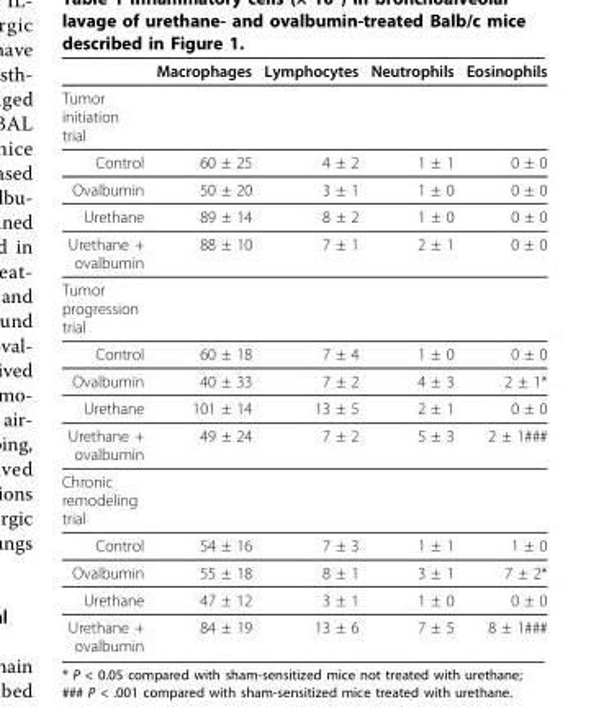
<table><thead><tr><td></td><td>Macrophages</td><td>Lymphocytes</td><td>Neutrophils</td><td>Eosinophils</td></tr></thead><tbody><tr><td colspan="5">Tumor initiation trial</td></tr><tr><td>Control</td><td>60 ± 25</td><td>4 ± 2</td><td>1 ± 1</td><td>0 ± 0</td></tr><tr><td>Ovalbumin</td><td>50 ± 20</td><td>3 ± 1</td><td>1 ± 0</td><td>0 ± 0</td></tr><tr><td>Urethane</td><td>89 ± 14</td><td>8 ± 2</td><td>1 ± 0</td><td>0 ± 0</td></tr><tr><td>Urethane + ovalbumin</td><td>88 ± 10</td><td>7 ± 1</td><td>2 ± 1</td><td>0 ± 0</td></tr><tr><td colspan="5">Tumor progression trial</td></tr><tr><td>Control</td><td>60 ± 18</td><td>7 ± 4</td><td>1 ± 0</td><td>0 ± 0</td></tr><tr><td>Ovalbumin</td><td>40 ± 33</td><td>7 ± 2</td><td>4 ± 3</td><td>2 ± 1*</td></tr><tr><td>Urethane</td><td>101 ± 14</td><td>13 ± 5</td><td>2 ± 1</td><td>0 ± 0</td></tr><tr><td>Urethane + ovalbumin</td><td>49 ± 24</td><td>7 ± 2</td><td>5 ± 3</td><td>2 ± 1###</td></tr><tr><td colspan="5">Chronic remodeling trial</td></tr><tr><td>Control</td><td>54 ± 16</td><td>7 ± 3</td><td>1 ± 1</td><td>1 ± 0</td></tr><tr><td>Ovalbumin</td><td>55 ± 18</td><td>8 ± 1</td><td>3 ± 1</td><td>7 ± 2*</td></tr><tr><td>Urethane</td><td>47 ± 12</td><td>3 ± 1</td><td>1 ± 0</td><td>0 ± 0</td></tr><tr><td>Urethane + ovalbumin</td><td>84 ± 19</td><td>13 ± 6</td><td>7 ± 5</td><td>8 ± 1###</td></tr></tbody></table>